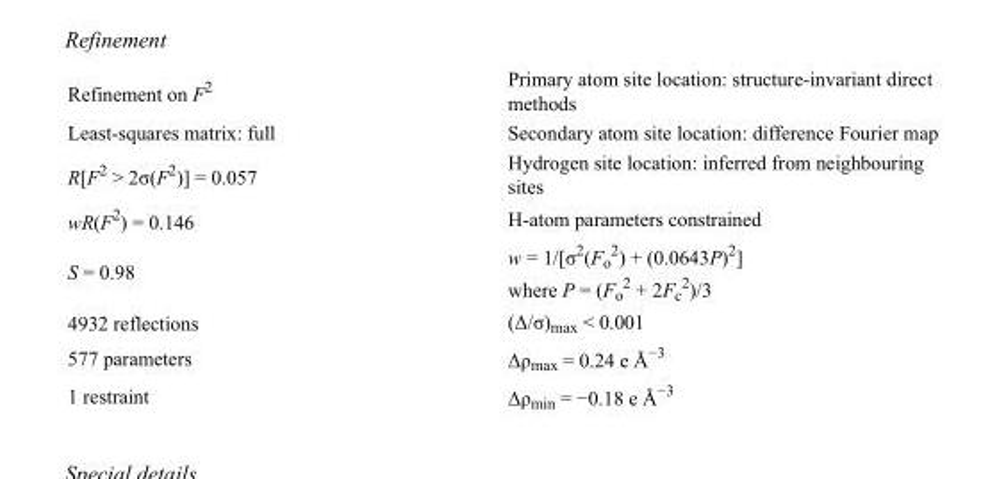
<table><tbody><tr><td>Refinement on F<sup>2</sup></td><td>Primary atom site location: structure-invariant direct methods</td></tr><tr><td>Least-squares matrix: full</td><td>Secondary atom site location: difference Fourier map</td></tr><tr><td>R[F<sup>2</sup> &gt; 2σ(F<sup>2</sup>)] = 0.057</td><td>Hydrogen site location: inferred from neighbouring sites</td></tr><tr><td>wR(F<sup>2</sup>) = 0.146</td><td>H-atom parameters constrained</td></tr><tr><td>S = 0.98</td><td>w = 1/[σ<sup>2</sup>(F<sub>o</sub> <sup>2</sup>) + (0.0643P)<sup>2</sup>] where P = (F<sub>o</sub> <sup>2</sup> + 2F<sub>c</sub> <sup>2</sup>)/3</td></tr><tr><td>4932 reflections</td><td>(Δ/σ)<sub>max</sub> &lt; 0.001</td></tr><tr><td>577 parameters</td><td>Δρ<sub>max</sub> = 0.24 e Å<sup>−3</sup></td></tr><tr><td>1 restraint</td><td>Δρ<sub>min</sub> = −0.18 e Å<sup>−3</sup></td></tr></tbody></table>